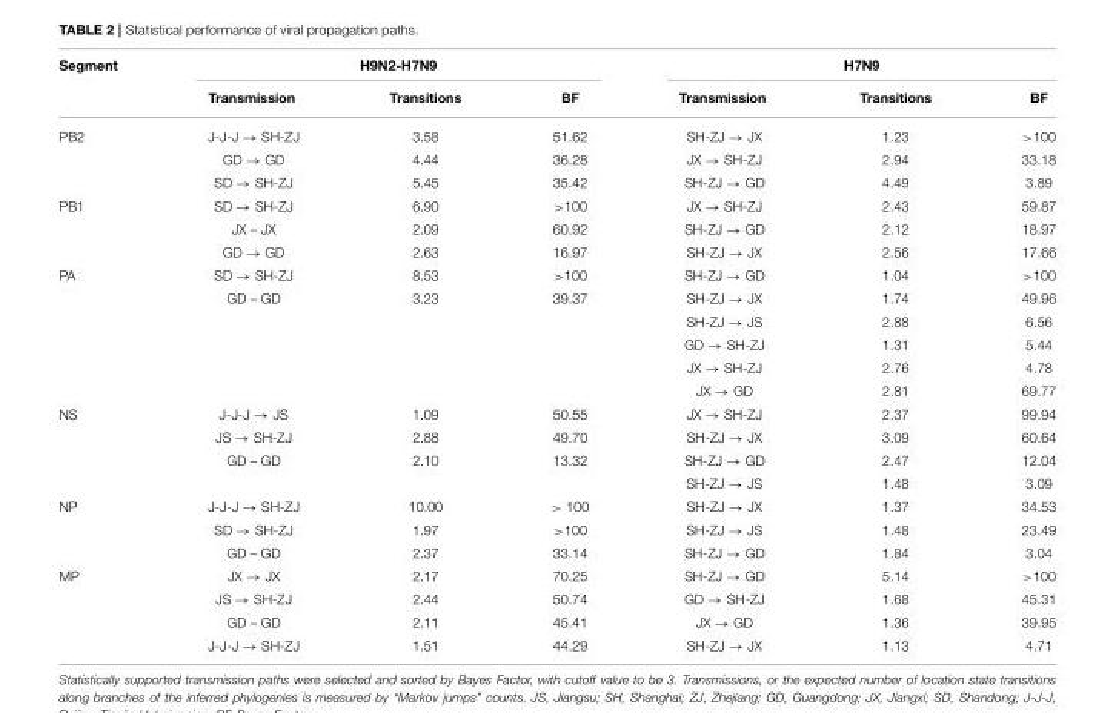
<table><thead><tr><td rowspan="2">Segment</td><td colspan="3">H9N2-H7N9</td><td colspan="3">H7N9</td></tr><tr><td>Transmission</td><td>Transitions</td><td>BF</td><td>Transmission</td><td>Transitions</td><td>BF</td></tr></thead><tbody><tr><td rowspan="3">PB2</td><td>J-J-J → SH-ZJ</td><td>3.58</td><td>51.62</td><td>SH-ZJ → JX</td><td>1.23</td><td>&gt;100</td></tr><tr><td>GD → GD</td><td>4.44</td><td>36.28</td><td>JX → SH-ZJ</td><td>2.94</td><td>33.18</td></tr><tr><td>SD → SH-ZJ</td><td>5.45</td><td>35.42</td><td>SH-ZJ → GD</td><td>4.49</td><td>3.89</td></tr><tr><td rowspan="3">PB1</td><td>SD → SH-ZJ</td><td>6.90</td><td>&gt;100</td><td>JX → SH-ZJ</td><td>2.43</td><td>59.87</td></tr><tr><td>JX – JX</td><td>2.09</td><td>60.92</td><td>SH-ZJ → GD</td><td>2.12</td><td>18.97</td></tr><tr><td>GD → GD</td><td>2.63</td><td>16.97</td><td>SH-ZJ → JX</td><td>2.56</td><td>17.66</td></tr><tr><td rowspan="6">PA</td><td>SD → SH-ZJ</td><td>8.53</td><td>&gt;100</td><td>SH-ZJ → GD</td><td>1.04</td><td>&gt;100</td></tr><tr><td>GD – GD</td><td>3.23</td><td>39.37</td><td>SH-ZJ → JX</td><td>1.74</td><td>49.96</td></tr><tr><td></td><td></td><td></td><td>SH-ZJ → JS</td><td>2.88</td><td>6.56</td></tr><tr><td></td><td></td><td></td><td>GD → SH-ZJ</td><td>1.31</td><td>5.44</td></tr><tr><td></td><td></td><td></td><td>JX → SH-ZJ</td><td>2.76</td><td>4.78</td></tr><tr><td></td><td></td><td></td><td>JX → GD</td><td>2.81</td><td>69.77</td></tr><tr><td rowspan="4">NS</td><td>J-J-J → JS</td><td>1.09</td><td>50.55</td><td>JX → SH-ZJ</td><td>2.37</td><td>99.94</td></tr><tr><td>JS → SH-ZJ</td><td>2.88</td><td>49.70</td><td>SH-ZJ → JX</td><td>3.09</td><td>60.64</td></tr><tr><td>GD – GD</td><td>2.10</td><td>13.32</td><td>SH-ZJ → GD</td><td>2.47</td><td>12.04</td></tr><tr><td></td><td></td><td></td><td>SH-ZJ → JS</td><td>1.48</td><td>3.09</td></tr><tr><td rowspan="3">NP</td><td>J-J-J → SH-ZJ</td><td>10.00</td><td>&gt; 100</td><td>SH-ZJ → JX</td><td>1.37</td><td>34.53</td></tr><tr><td>SD → SH-ZJ</td><td>1.97</td><td>&gt;100</td><td>SH-ZJ → JS</td><td>1.48</td><td>23.49</td></tr><tr><td>GD – GD</td><td>2.37</td><td>33.14</td><td>SH-ZJ → GD</td><td>1.84</td><td>3.04</td></tr><tr><td rowspan="4">MP</td><td>JX → JX</td><td>2.17</td><td>70.25</td><td>SH-ZJ → GD</td><td>5.14</td><td>&gt;100</td></tr><tr><td>JS → SH-ZJ</td><td>2.44</td><td>50.74</td><td>GD → SH-ZJ</td><td>1.68</td><td>45.31</td></tr><tr><td>GD – GD</td><td>2.11</td><td>45.41</td><td>JX → GD</td><td>1.36</td><td>39.95</td></tr><tr><td>J-J-J → SH-ZJ</td><td>1.51</td><td>44.29</td><td>SH-ZJ → JX</td><td>1.13</td><td>4.71</td></tr></tbody></table>